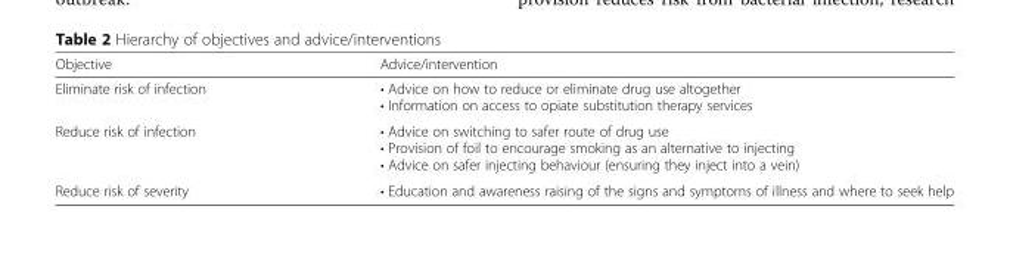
<table><thead><tr><td>Objective</td><td>Advice/intervention</td></tr></thead><tbody><tr><td>Eliminate risk of infection</td><td>• Advice on how to reduce or eliminate drug use altogether • Information on access to opiate substitution therapy services</td></tr><tr><td>Reduce risk of infection</td><td>• Advice on switching to safer route of drug use • Provision of foil to encourage smoking as an alternative to injecting • Advice on safer injecting behaviour (ensuring they inject into a vein)</td></tr><tr><td>Reduce risk of severity</td><td>• Education and awareness raising of the signs and symptoms of illness and where to seek help</td></tr></tbody></table>